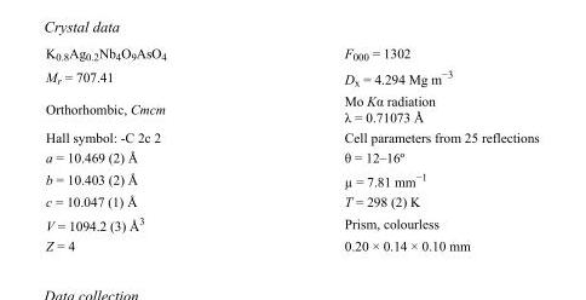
<table><tbody><tr><td>K<sub>0.8</sub>Ag<sub>0.2</sub>Nb<sub>4</sub>O<sub>9</sub>AsO<sub>4</sub></td><td>F<sub>000</sub> = 1302</td></tr><tr><td>M<sub>r</sub> = 707.41</td><td>D<sub>x</sub> = 4.294 Mg m<sup>−3</sup></td></tr><tr><td>Orthorhombic, Cmcm</td><td>Mo Kα radiation λ = 0.71073 Å</td></tr><tr><td>Hall symbol: -C 2c 2</td><td>Cell parameters from 25 reflections</td></tr><tr><td>a = 10.469 (2) Å</td><td>θ = 12–16º</td></tr><tr><td>b = 10.403 (2) Å</td><td>µ = 7.81 mm<sup>−1</sup></td></tr><tr><td>c = 10.047 (1) Å</td><td>T = 298 (2) K</td></tr><tr><td>V = 1094.2 (3) Å<sup>3</sup></td><td>Prism, colourless</td></tr><tr><td>Z = 4</td><td>0.20 × 0.14 × 0.10 mm</td></tr></tbody></table>